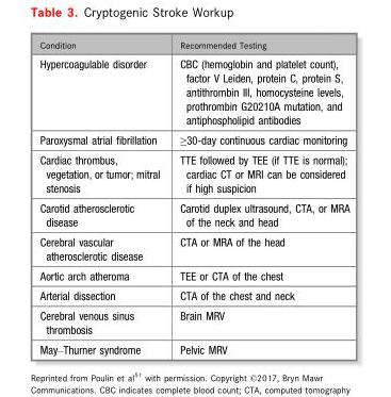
<table><thead><tr><td>Condition</td><td>Recommended Testing</td></tr></thead><tbody><tr><td>Hypercoagulable disorder</td><td>CBC (hemoglobin and platelet count), factor V Leiden, protein C, protein S, antithrombin III, homocysteine levels, prothrombin G20210A mutation, and antiphospholipid antibodies</td></tr><tr><td>Paroxysmal atrial fibrillation</td><td>≥30-day continuous cardiac monitoring</td></tr><tr><td>Cardiac thrombus, vegetation, or tumor; mitral stenosis</td><td>TTE followed by TEE (if TTE is normal); cardiac CT or MRI can be considered if high suspicion</td></tr><tr><td>Carotid atherosclerotic disease</td><td>Carotid duplex ultrasound, CTA, or MRA of the neck and head</td></tr><tr><td>Cerebral vascular atherosclerotic disease</td><td>CTA or MRA of the head</td></tr><tr><td>Aortic arch atheroma</td><td>TEE or CTA of the chest</td></tr><tr><td>Arterial dissection</td><td>CTA of the chest and neck</td></tr><tr><td>Cerebral venous sinus thrombosis</td><td>Brain MRV</td></tr><tr><td>May–Thurner syndrome</td><td>Pelvic MRV</td></tr></tbody></table>